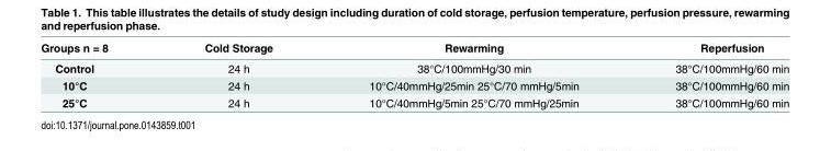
<table><thead><tr><td>Groups n = 8</td><td>Cold Storage</td><td>Rewarming</td><td>Reperfusion</td></tr></thead><tbody><tr><td>Control</td><td>24 h</td><td>38°C/100mmHg/30 min</td><td>38°C/100mmHg/60 min</td></tr><tr><td>10°C</td><td>24 h</td><td>10°C/40mmHg/25min 25°C/70 mmHg/5min</td><td>38°C/100mmHg/60 min</td></tr><tr><td>25°C</td><td>24 h</td><td>10°C/40mmHg/5min 25°C/70 mmHg/25min</td><td>38°C/100mmHg/60 min</td></tr></tbody></table>